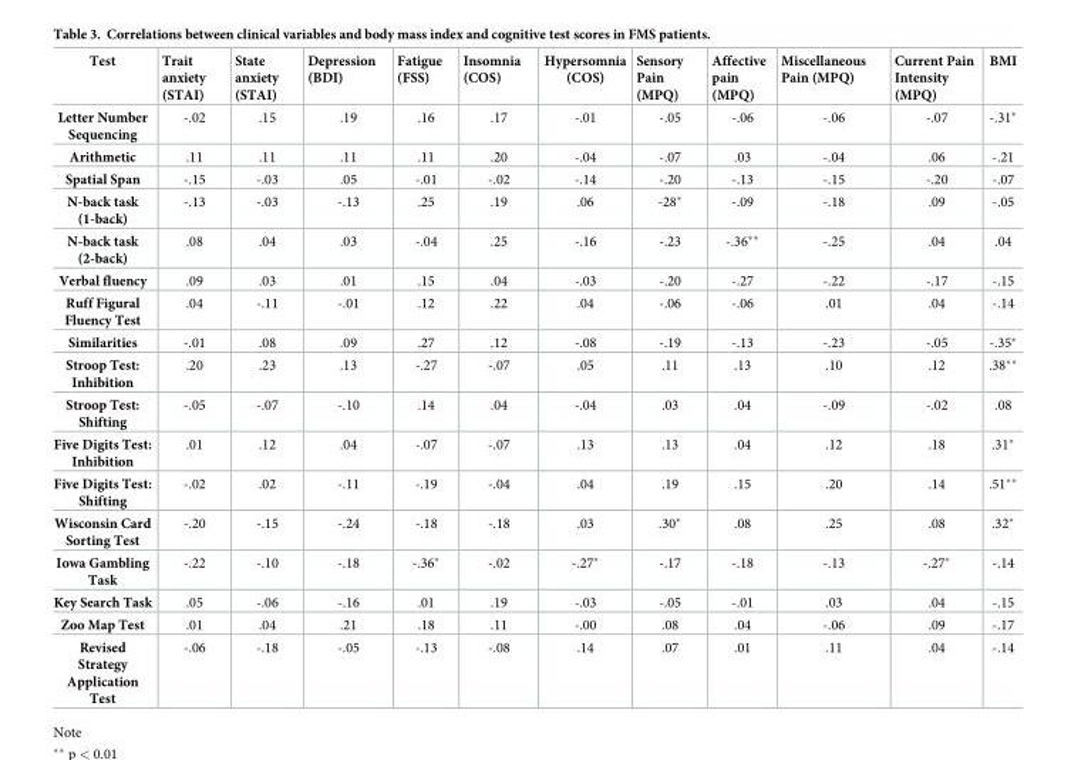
<table><thead><tr><td>Test</td><td>Trait anxiety (STAI)</td><td>State anxiety (STAI)</td><td>Depression (BDI)</td><td>Fatigue (FSS)</td><td>Insomnia (COS)</td><td>Hypersomnia (COS)</td><td>Sensory Pain (MPQ)</td><td>Affective pain (MPQ)</td><td>Miscellaneous Pain (MPQ)</td><td>Current Pain Intensity (MPQ)</td><td>BMI</td></tr></thead><tbody><tr><td>Letter Number Sequencing</td><td>-.02</td><td>.15</td><td>.19</td><td>.16</td><td>.17</td><td>-.01</td><td>-.05</td><td>-.06</td><td>-.06</td><td>-.07</td><td>-.31*</td></tr><tr><td>Arithmetic</td><td>.11</td><td>.11</td><td>.11</td><td>.11</td><td>.20</td><td>-.04</td><td>-.07</td><td>.03</td><td>-.04</td><td>.06</td><td>-.21</td></tr><tr><td>Spatial Span</td><td>-.15</td><td>-.03</td><td>.05</td><td>-.01</td><td>-.02</td><td>-.14</td><td>-.20</td><td>-.13</td><td>-.15</td><td>-.20</td><td>-.07</td></tr><tr><td>N-back task (1-back)</td><td>-.13</td><td>-.03</td><td>-.13</td><td>.25</td><td>.19</td><td>.06</td><td>-28*</td><td>-.09</td><td>-.18</td><td>.09</td><td>-.05</td></tr><tr><td>N-back task (2-back)</td><td>.08</td><td>.04</td><td>.03</td><td>-.04</td><td>.25</td><td>-.16</td><td>-.23</td><td>-.36**</td><td>-.25</td><td>.04</td><td>.04</td></tr><tr><td>Verbal fluency</td><td>.09</td><td>.03</td><td>.01</td><td>.15</td><td>.04</td><td>-.03</td><td>-.20</td><td>-.27</td><td>-.22</td><td>-.17</td><td>-.15</td></tr><tr><td>Ruff Figural Fluency Test</td><td>.04</td><td>-.11</td><td>-.01</td><td>.12</td><td>.22</td><td>.04</td><td>-.06</td><td>-.06</td><td>.01</td><td>.04</td><td>-.14</td></tr><tr><td>Similarities</td><td>-.01</td><td>.08</td><td>.09</td><td>.27</td><td>.12</td><td>-.08</td><td>-.19</td><td>-.13</td><td>-.23</td><td>-.05</td><td>-.35*</td></tr><tr><td>Stroop Test: Inhibition</td><td>.20</td><td>.23</td><td>.13</td><td>-.27</td><td>-.07</td><td>.05</td><td>.11</td><td>.13</td><td>.10</td><td>.12</td><td>.38**</td></tr><tr><td>Stroop Test: Shifting</td><td>-.05</td><td>-.07</td><td>-.10</td><td>.14</td><td>.04</td><td>-.04</td><td>.03</td><td>.04</td><td>-.09</td><td>-.02</td><td>.08</td></tr><tr><td>Five Digits Test: Inhibition</td><td>.01</td><td>.12</td><td>.04</td><td>-.07</td><td>-.07</td><td>.13</td><td>.13</td><td>.04</td><td>.12</td><td>.18</td><td>.31*</td></tr><tr><td>Five Digits Test: Shifting</td><td>-.02</td><td>.02</td><td>-.11</td><td>-.19</td><td>-.04</td><td>.04</td><td>.19</td><td>.15</td><td>.20</td><td>.14</td><td>.51**</td></tr><tr><td>Wisconsin Card Sorting Test</td><td>-.20</td><td>-.15</td><td>-.24</td><td>-.18</td><td>-.18</td><td>.03</td><td>.30*</td><td>.08</td><td>.25</td><td>.08</td><td>.32*</td></tr><tr><td>Iowa Gambling Task</td><td>-.22</td><td>-.10</td><td>-.18</td><td>-.36*</td><td>-.02</td><td>-.27*</td><td>-.17</td><td>-.18</td><td>-.13</td><td>-.27*</td><td>-.14</td></tr><tr><td>Key Search Task</td><td>.05</td><td>-.06</td><td>-.16</td><td>.01</td><td>.19</td><td>-.03</td><td>-.05</td><td>-.01</td><td>.03</td><td>.04</td><td>-.15</td></tr><tr><td>Zoo Map Test</td><td>.01</td><td>.04</td><td>.21</td><td>.18</td><td>.11</td><td>-.00</td><td>.08</td><td>.04</td><td>-.06</td><td>.09</td><td>-.17</td></tr><tr><td>Revised Strategy Application Test</td><td>-.06</td><td>-.18</td><td>-.05</td><td>-.13</td><td>-.08</td><td>.14</td><td>.07</td><td>.01</td><td>.11</td><td>.04</td><td>-.14</td></tr></tbody></table>